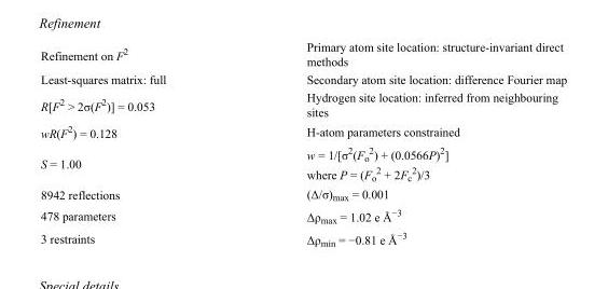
<table><tbody><tr><td>Refinement on F<sup>2</sup></td><td>Primary atom site location: structure-invariant direct methods</td></tr><tr><td>Least-squares matrix: full</td><td>Secondary atom site location: difference Fourier map</td></tr><tr><td>R[F<sup>2</sup> &gt; 2σ(F<sup>2</sup>)] = 0.053</td><td>Hydrogen site location: inferred from neighbouring sites</td></tr><tr><td>wR(F<sup>2</sup>) = 0.128</td><td>H-atom parameters constrained</td></tr><tr><td>S = 1.00</td><td>w = 1/[σ<sup>2</sup>(F<sub>o</sub> <sup>2</sup>) + (0.0566P)<sup>2</sup>] where P = (F<sub>o</sub> <sup>2</sup> + 2F<sub>c</sub> <sup>2</sup>)/3</td></tr><tr><td>8942 reflections</td><td>(Δ/σ)<sub>max</sub> = 0.001</td></tr><tr><td>478 parameters</td><td>Δρ<sub>max</sub> = 1.02 e Å<sup>−3</sup></td></tr><tr><td>3 restraints</td><td>Δρ<sub>min</sub> = −0.81 e Å<sup>−3</sup></td></tr></tbody></table>